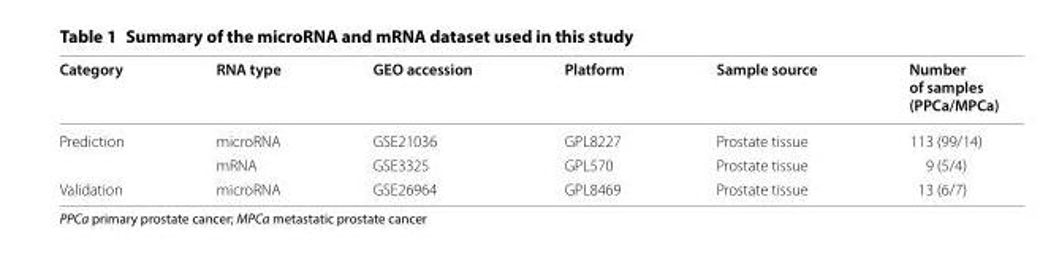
<table><thead><tr><td>Category</td><td>RNA type</td><td>GEO accession</td><td>Platform</td><td>Sample source</td><td>Number of samples (PPCa/MPCa)</td></tr></thead><tbody><tr><td rowspan="2">Prediction</td><td>microRNA</td><td>GSE21036</td><td>GPL8227</td><td>Prostate tissue</td><td>113 (99/14)</td></tr><tr><td>mRNA</td><td>GSE3325</td><td>GPL570</td><td>Prostate tissue</td><td>9 (5/4)</td></tr><tr><td>Validation</td><td>microRNA</td><td>GSE26964</td><td>GPL8469</td><td>Prostate tissue</td><td>13 (6/7)</td></tr></tbody></table>